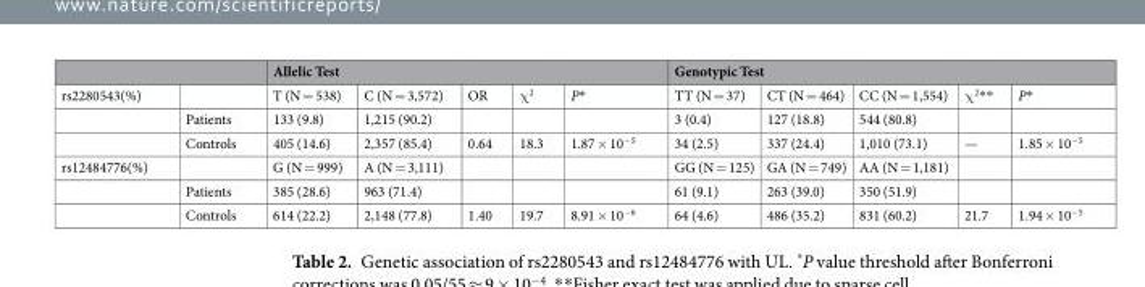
<table><thead><tr><td rowspan="2">rs2280543(%)</td><td rowspan="2"></td><td colspan="5">Allelic Test</td><td colspan="5">Genotypic Test</td></tr><tr><td>T (N = 538)</td><td>C (N = 3,572)</td><td>OR</td><td>χ<sup>2</sup></td><td>P*</td><td>TT (N = 37)</td><td>CT (N = 464)</td><td>CC (N = 1,554)</td><td>χ<sup>2</sup>**</td><td>P*</td></tr></thead><tbody><tr><td></td><td>Patients</td><td>133 (9.8)</td><td>1,215 (90.2)</td><td></td><td></td><td></td><td>3 (0.4)</td><td>127 (18.8)</td><td>544 (80.8)</td><td></td><td></td></tr><tr><td></td><td>Controls</td><td>405 (14.6)</td><td>2,357 (85.4)</td><td>0.64</td><td>18.3</td><td>1.87 × 10<sup>−5</sup></td><td>34 (2.5)</td><td>337 (24.4)</td><td>1,010 (73.1)</td><td>—</td><td>1.85 × 10<sup>−5</sup></td></tr><tr><td rowspan="3">rs12484776(%)</td><td></td><td>G (N = 999)</td><td>A (N = 3,111)</td><td></td><td></td><td></td><td>GG (N = 125)</td><td>GA (N = 749)</td><td>AA (N = 1,181)</td><td></td><td></td></tr><tr><td>Patients</td><td>385 (28.6)</td><td>963 (71.4)</td><td></td><td></td><td></td><td>61 (9.1)</td><td>263 (39.0)</td><td>350 (51.9)</td><td></td><td></td></tr><tr><td>Controls</td><td>614 (22.2)</td><td>2,148 (77.8)</td><td>1.40</td><td>19.7</td><td>8.91 × 10<sup>−6</sup></td><td>64 (4.6)</td><td>486 (35.2)</td><td>831 (60.2)</td><td>21.7</td><td>1.94 × 10<sup>−5</sup></td></tr></tbody></table>